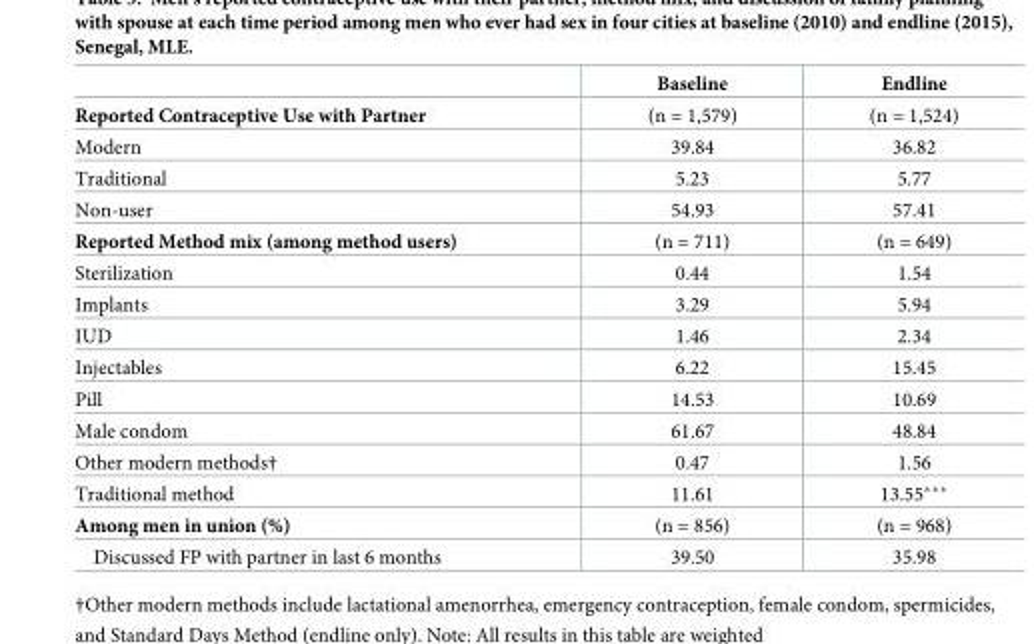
<table><thead><tr><td></td><td>Baseline</td><td>Endline</td></tr></thead><tbody><tr><td>Reported Contraceptive Use with Partner</td><td>(n = 1,579)</td><td>(n = 1,524)</td></tr><tr><td>Modern</td><td>39.84</td><td>36.82</td></tr><tr><td>Traditional</td><td>5.23</td><td>5.77</td></tr><tr><td>Non-user</td><td>54.93</td><td>57.41</td></tr><tr><td>Reported Method mix (among method users)</td><td>(n = 711)</td><td>(n = 649)</td></tr><tr><td>Sterilization</td><td>0.44</td><td>1.54</td></tr><tr><td>Implants</td><td>3.29</td><td>5.94</td></tr><tr><td>IUD</td><td>1.46</td><td>2.34</td></tr><tr><td>Injectables</td><td>6.22</td><td>15.45</td></tr><tr><td>Pill</td><td>14.53</td><td>10.69</td></tr><tr><td>Male condom</td><td>61.67</td><td>48.84</td></tr><tr><td>Other modern methods†</td><td>0.47</td><td>1.56</td></tr><tr><td>Traditional method</td><td>11.61</td><td>13.55***</td></tr><tr><td>Among men in union (%)</td><td>(n = 856)</td><td>(n = 968)</td></tr><tr><td>Discussed FP with partner in last 6 months</td><td>39.50</td><td>35.98</td></tr></tbody></table>